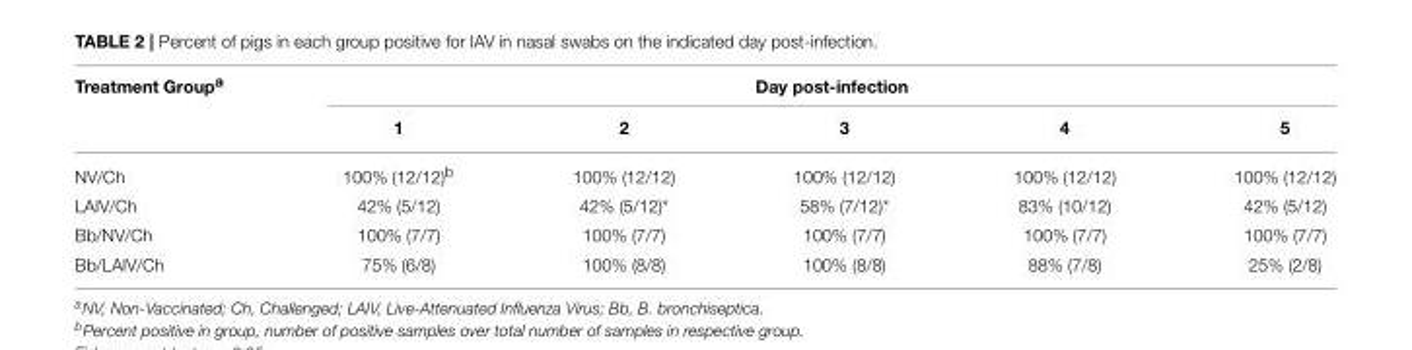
<table><thead><tr><td rowspan="2">Treatment Group<sup>a</sup></td><td colspan="5">Day post-infection</td></tr><tr><td>1</td><td>2</td><td>3</td><td>4</td><td>5</td></tr></thead><tbody><tr><td>NV/Ch</td><td>100% (12/12)<sup>b</sup></td><td>100% (12/12)</td><td>100% (12/12)</td><td>100% (12/12)</td><td>100% (12/12)</td></tr><tr><td>LAIV/Ch</td><td>42% (5/12)</td><td>42% (5/12)*</td><td>58% (7/12)*</td><td>83% (10/12)</td><td>42% (5/12)</td></tr><tr><td>Bb/NV/Ch</td><td>100% (7/7)</td><td>100% (7/7)</td><td>100% (7/7)</td><td>100% (7/7)</td><td>100% (7/7)</td></tr><tr><td>Bb/LAIV/Ch</td><td>75% (6/8)</td><td>100% (8/8)</td><td>100% (8/8)</td><td>88% (7/8)</td><td>25% (2/8)</td></tr></tbody></table>